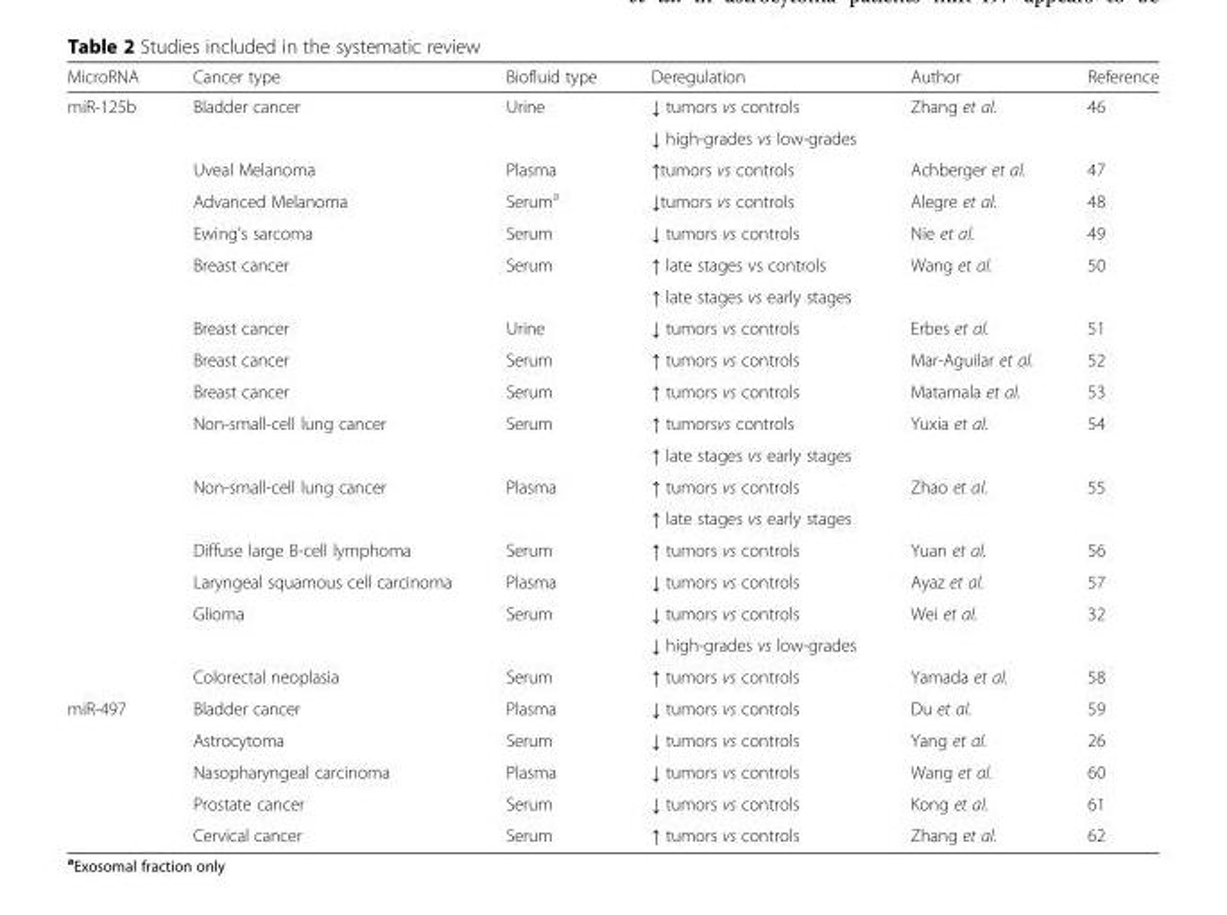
<table><thead><tr><td>MicroRNA</td><td>Cancer type</td><td>Biofluid type</td><td>Deregulation</td><td>Author</td><td>Reference</td></tr></thead><tbody><tr><td rowspan="19">miR-125b</td><td rowspan="2">Bladder cancer</td><td rowspan="2">Urine</td><td>↓ tumors vs controls</td><td rowspan="2">Zhang et al.</td><td rowspan="2">46</td></tr><tr><td>↓ high-grades vs low-grades</td></tr><tr><td>Uveal Melanoma</td><td>Plasma</td><td>↑tumors vs controls</td><td>Achberger et al.</td><td>47</td></tr><tr><td>Advanced Melanoma</td><td>Serum<sup>a</sup></td><td>↓tumors vs controls</td><td>Alegre et al.</td><td>48</td></tr><tr><td>Ewing’s sarcoma</td><td>Serum</td><td>↓ tumors vs controls</td><td>Nie et al.</td><td>49</td></tr><tr><td rowspan="2">Breast cancer</td><td rowspan="2">Serum</td><td>↑ late stages vs controls</td><td rowspan="2">Wang et al.</td><td rowspan="2">50</td></tr><tr><td>↑ late stages vs early stages</td></tr><tr><td>Breast cancer</td><td>Urine</td><td>↓ tumors vs controls</td><td>Erbes et al.</td><td>51</td></tr><tr><td>Breast cancer</td><td>Serum</td><td>↑ tumors vs controls</td><td>Mar-Aguilar et al.</td><td>52</td></tr><tr><td>Breast cancer</td><td>Serum</td><td>↑ tumors vs controls</td><td>Matamala et al.</td><td>53</td></tr><tr><td rowspan="2">Non-small-cell lung cancer</td><td rowspan="2">Serum</td><td>↑ tumorsvs controls</td><td rowspan="2">Yuxia et al.</td><td rowspan="2">54</td></tr><tr><td>↑ late stages vs early stages</td></tr><tr><td rowspan="2">Non-small-cell lung cancer</td><td rowspan="2">Plasma</td><td>↑ tumors vs controls</td><td rowspan="2">Zhao et al.</td><td rowspan="2">55</td></tr><tr><td>↑ late stages vs early stages</td></tr><tr><td>Diffuse large B-cell lymphoma</td><td>Serum</td><td>↑ tumors vs controls</td><td>Yuan et al.</td><td>56</td></tr><tr><td>Laryngeal squamous cell carcinoma</td><td>Plasma</td><td>↓ tumors vs controls</td><td>Ayaz et al.</td><td>57</td></tr><tr><td rowspan="2">Glioma</td><td rowspan="2">Serum</td><td>↓ tumors vs controls</td><td rowspan="2">Wei et al.</td><td rowspan="2">32</td></tr><tr><td>↓ high-grades vs low-grades</td></tr><tr><td>Colorectal neoplasia</td><td>Serum</td><td>↑ tumors vs controls</td><td>Yamada et al.</td><td>58</td></tr><tr><td rowspan="5">miR-497</td><td>Bladder cancer</td><td>Plasma</td><td>↓ tumors vs controls</td><td>Du et al.</td><td>59</td></tr><tr><td>Astrocytoma</td><td>Serum</td><td>↓ tumors vs controls</td><td>Yang et al.</td><td>26</td></tr><tr><td>Nasopharyngeal carcinoma</td><td>Plasma</td><td>↓ tumors vs controls</td><td>Wang et al.</td><td>60</td></tr><tr><td>Prostate cancer</td><td>Serum</td><td>↓ tumors vs controls</td><td>Kong et al.</td><td>61</td></tr><tr><td>Cervical cancer</td><td>Serum</td><td>↑ tumors vs controls</td><td>Zhang et al.</td><td>62</td></tr></tbody></table>